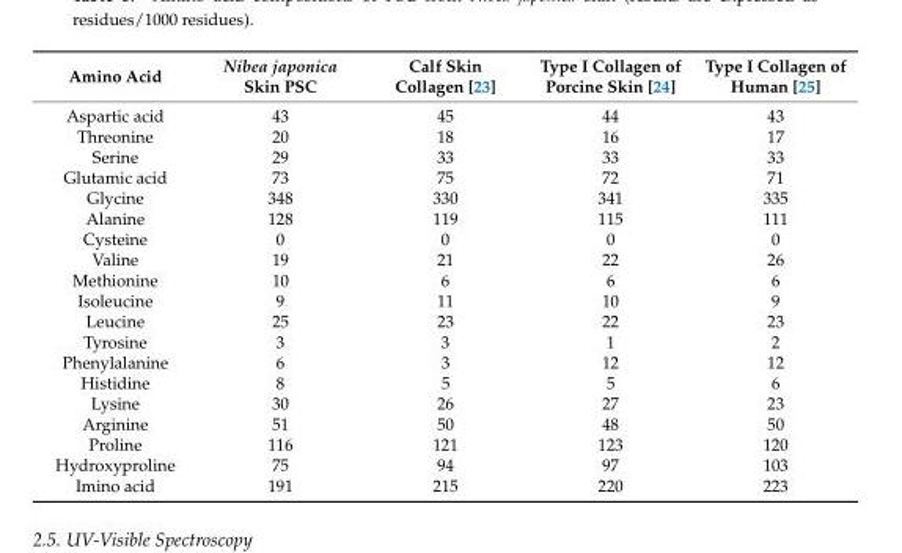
<table><thead><tr><td>Amino Acid</td><td>Nibea japonica Skin PSC</td><td>Calf Skin Collagen [23]</td><td>Type I Collagen of Porcine Skin [24]</td><td>Type I Collagen of Human [25]</td></tr></thead><tbody><tr><td>Aspartic acid</td><td>43</td><td>45</td><td>44</td><td>43</td></tr><tr><td>Threonine</td><td>20</td><td>18</td><td>16</td><td>17</td></tr><tr><td>Serine</td><td>29</td><td>33</td><td>33</td><td>33</td></tr><tr><td>Glutamic acid</td><td>73</td><td>75</td><td>72</td><td>71</td></tr><tr><td>Glycine</td><td>348</td><td>330</td><td>341</td><td>335</td></tr><tr><td>Alanine</td><td>128</td><td>119</td><td>115</td><td>111</td></tr><tr><td>Cysteine</td><td>0</td><td>0</td><td>0</td><td>0</td></tr><tr><td>Valine</td><td>19</td><td>21</td><td>22</td><td>26</td></tr><tr><td>Methionine</td><td>10</td><td>6</td><td>6</td><td>6</td></tr><tr><td>Isoleucine</td><td>9</td><td>11</td><td>10</td><td>9</td></tr><tr><td>Leucine</td><td>25</td><td>23</td><td>22</td><td>23</td></tr><tr><td>Tyrosine</td><td>3</td><td>3</td><td>1</td><td>2</td></tr><tr><td>Phenylalanine</td><td>6</td><td>3</td><td>12</td><td>12</td></tr><tr><td>Histidine</td><td>8</td><td>5</td><td>5</td><td>6</td></tr><tr><td>Lysine</td><td>30</td><td>26</td><td>27</td><td>23</td></tr><tr><td>Arginine</td><td>51</td><td>50</td><td>48</td><td>50</td></tr><tr><td>Proline</td><td>116</td><td>121</td><td>123</td><td>120</td></tr><tr><td>Hydroxyproline</td><td>75</td><td>94</td><td>97</td><td>103</td></tr><tr><td>Imino acid</td><td>191</td><td>215</td><td>220</td><td>223</td></tr></tbody></table>